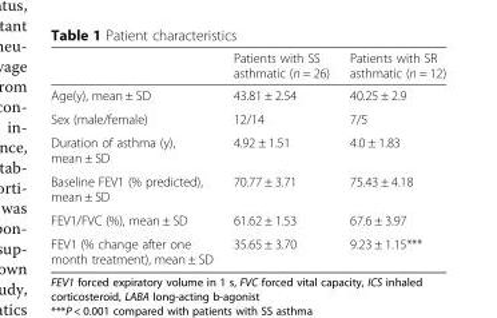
<table><thead><tr><td></td><td>Patients with SS asthmatic (n = 26)</td><td>Patients with SR asthmatic (n = 12)</td></tr></thead><tbody><tr><td>Age(y), mean ± SD</td><td>43.81 ± 2.54</td><td>40.25 ± 2.9</td></tr><tr><td>Sex (male/female)</td><td>12/14</td><td>7/5</td></tr><tr><td>Duration of asthma (y), mean ± SD</td><td>4.92 ± 1.51</td><td>4.0 ± 1.83</td></tr><tr><td>Baseline FEV1 (% predicted), mean ± SD</td><td>70.77 ± 3.71</td><td>75.43 ± 4.18</td></tr><tr><td>FEV1/FVC (%), mean ± SD</td><td>61.62 ± 1.53</td><td>67.6 ± 3.97</td></tr><tr><td>FEV1 (% change after one month treatment), mean ± SD</td><td>35.65 ± 3.70</td><td>9.23 ± 1.15***</td></tr></tbody></table>